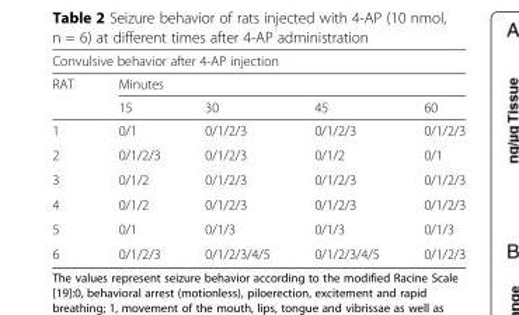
<table><thead><tr><td colspan="5">Convulsive behavior after 4-AP injection</td></tr><tr><td rowspan="2">RAT</td><td colspan="4">Minutes</td></tr><tr><td>15</td><td>30</td><td>45</td><td>60</td></tr></thead><tbody><tr><td>1</td><td>0/1</td><td>0/1/2/3</td><td>0/1/2/3</td><td>0/1/2/3</td></tr><tr><td>2</td><td>0/1/2/3</td><td>0/1/2/3</td><td>0/1/2</td><td>0/1</td></tr><tr><td>3</td><td>0/1/2</td><td>0/1/2/3</td><td>0/1/2/3</td><td>0/1/2/3</td></tr><tr><td>4</td><td>0/1/2</td><td>0/1/2/3</td><td>0/1/2/3</td><td>0/1/2/3</td></tr><tr><td>5</td><td>0/1</td><td>0/1/3</td><td>0/1/3</td><td>0/1/3</td></tr><tr><td>6</td><td>0/1/2/3</td><td>0/1/2/3/4/5</td><td>0/1/2/3/4/5</td><td>0/1/2/3</td></tr></tbody></table>